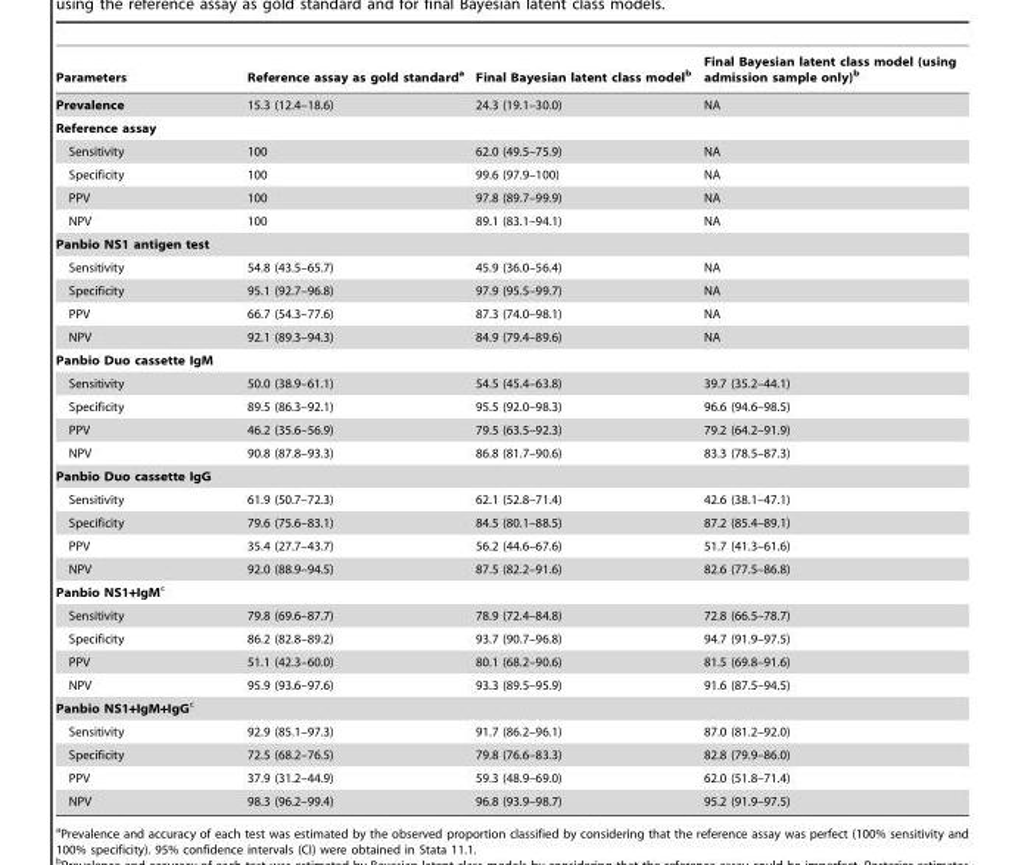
<table><thead><tr><td>Parameters</td><td>Reference assay as gold standard<sup>a</sup></td><td>Final Bayesian latent class model<sup>b</sup></td><td>Final Bayesian latent class model (using admission sample only)<sup>b</sup></td></tr></thead><tbody><tr><td>Prevalence</td><td>15.3 (12.4–18.6)</td><td>24.3 (19.1–30.0)</td><td>NA</td></tr><tr><td colspan="4">Reference assay</td></tr><tr><td>Sensitivity</td><td>100</td><td>62.0 (49.5–75.9)</td><td>NA</td></tr><tr><td>Specificity</td><td>100</td><td>99.6 (97.9–100)</td><td>NA</td></tr><tr><td>PPV</td><td>100</td><td>97.8 (89.7–99.9)</td><td>NA</td></tr><tr><td>NPV</td><td>100</td><td>89.1 (83.1–94.1)</td><td>NA</td></tr><tr><td colspan="4">Panbio NS1 antigen test</td></tr><tr><td>Sensitivity</td><td>54.8 (43.5–65.7)</td><td>45.9 (36.0–56.4)</td><td>NA</td></tr><tr><td>Specificity</td><td>95.1 (92.7–96.8)</td><td>97.9 (95.5–99.7)</td><td>NA</td></tr><tr><td>PPV</td><td>66.7 (54.3–77.6)</td><td>87.3 (74.0–98.1)</td><td>NA</td></tr><tr><td>NPV</td><td>92.1 (89.3–94.3)</td><td>84.9 (79.4–89.6)</td><td>NA</td></tr><tr><td colspan="4">Panbio Duo cassette IgM</td></tr><tr><td>Sensitivity</td><td>50.0 (38.9–61.1)</td><td>54.5 (45.4–63.8)</td><td>39.7 (35.2–44.1)</td></tr><tr><td>Specificity</td><td>89.5 (86.3–92.1)</td><td>95.5 (92.0–98.3)</td><td>96.6 (94.6–98.5)</td></tr><tr><td>PPV</td><td>46.2 (35.6–56.9)</td><td>79.5 (63.5–92.3)</td><td>79.2 (64.2–91.9)</td></tr><tr><td>NPV</td><td>90.8 (87.8–93.3)</td><td>86.8 (81.7–90.6)</td><td>83.3 (78.5–87.3)</td></tr><tr><td colspan="4">Panbio Duo cassette IgG</td></tr><tr><td>Sensitivity</td><td>61.9 (50.7–72.3)</td><td>62.1 (52.8–71.4)</td><td>42.6 (38.1–47.1)</td></tr><tr><td>Specificity</td><td>79.6 (75.6–83.1)</td><td>84.5 (80.1–88.5)</td><td>87.2 (85.4–89.1)</td></tr><tr><td>PPV</td><td>35.4 (27.7–43.7)</td><td>56.2 (44.6–67.6)</td><td>51.7 (41.3–61.6)</td></tr><tr><td>NPV</td><td>92.0 (88.9–94.5)</td><td>87.5 (82.2–91.6)</td><td>82.6 (77.5–86.8)</td></tr><tr><td colspan="4">Panbio NS1+IgMc</td></tr><tr><td>Sensitivity</td><td>79.8 (69.6–87.7)</td><td>78.9 (72.4–84.8)</td><td>72.8 (66.5–78.7)</td></tr><tr><td>Specificity</td><td>86.2 (82.8–89.2)</td><td>93.7 (90.7–96.8)</td><td>94.7 (91.9–97.5)</td></tr><tr><td>PPV</td><td>51.1 (42.3–60.0)</td><td>80.1 (68.2–90.6)</td><td>81.5 (69.8–91.6)</td></tr><tr><td>NPV</td><td>95.9 (93.6–97.6)</td><td>93.3 (89.5–95.9)</td><td>91.6 (87.5–94.5)</td></tr><tr><td colspan="4">Panbio NS1+IgM+IgGc</td></tr><tr><td>Sensitivity</td><td>92.9 (85.1–97.3)</td><td>91.7 (86.2–96.1)</td><td>87.0 (81.2–92.0)</td></tr><tr><td>Specificity</td><td>72.5 (68.2–76.5)</td><td>79.8 (76.6–83.3)</td><td>82.8 (79.9–86.0)</td></tr><tr><td>PPV</td><td>37.9 (31.2–44.9)</td><td>59.3 (48.9–69.0)</td><td>62.0 (51.8–71.4)</td></tr><tr><td>NPV</td><td>98.3 (96.2–99.4)</td><td>96.8 (93.9–98.7)</td><td>95.2 (91.9–97.5)</td></tr></tbody></table>